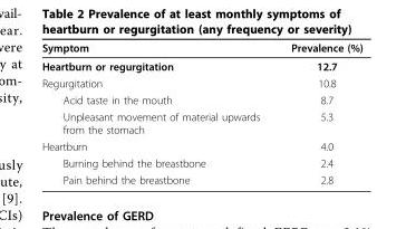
<table><thead><tr><td>Symptom</td><td>Prevalence (%)</td></tr></thead><tbody><tr><td>Heartburn or regurgitation</td><td>12.7</td></tr><tr><td>Regurgitation</td><td>10.8</td></tr><tr><td>Acid taste in the mouth</td><td>8.7</td></tr><tr><td>Unpleasant movement of material upwards from the stomach</td><td>5.3</td></tr><tr><td>Heartburn</td><td>4.0</td></tr><tr><td>Burning behind the breastbone</td><td>2.4</td></tr><tr><td>Pain behind the breastbone</td><td>2.8</td></tr></tbody></table>